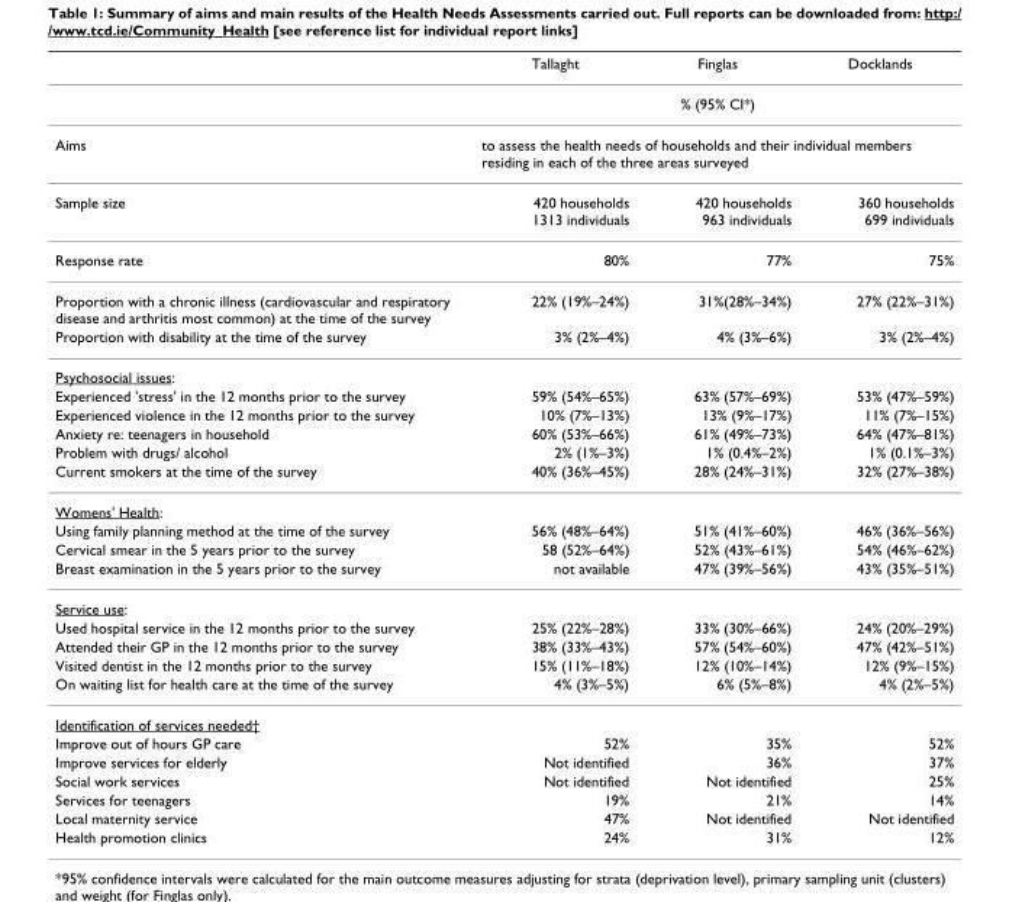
<table><thead><tr><td></td><td>Tallaght</td><td>Finglas</td><td>Docklands</td></tr></thead><tbody><tr><td></td><td colspan="3">% (95% CI*)</td></tr><tr><td>Aims</td><td colspan="3">to assess the health needs of households and their individual members residing in each of the three areas surveyed</td></tr><tr><td>Sample size</td><td>420 households 1313 individuals</td><td>420 households 963 individuals</td><td>360 households 699 individuals</td></tr><tr><td>Response rate</td><td>80%</td><td>77%</td><td>75%</td></tr><tr><td>Proportion with a chronic illness (cardiovascular and respiratory disease and arthritis most common) at the time of the survey</td><td>22% (19%–24%)</td><td>31%(28%–34%)</td><td>27% (22%–31%)</td></tr><tr><td>Proportion with disability at the time of the survey</td><td>3% (2%–4%)</td><td>4% (3%–6%)</td><td>3% (2%–4%)</td></tr><tr><td colspan="4">Psychosocial issues:</td></tr><tr><td>Experienced &#x27;stress&#x27; in the 12 months prior to the survey</td><td>59% (54%–65%)</td><td>63% (57%–69%)</td><td>53% (47%–59%)</td></tr><tr><td>Experienced violence in the 12 months prior to the survey</td><td>10% (7%–13%)</td><td>13% (9%–17%)</td><td>11% (7%–15%)</td></tr><tr><td>Anxiety re: teenagers in household</td><td>60% (53%–66%)</td><td>61% (49%–73%)</td><td>64% (47%–81%)</td></tr><tr><td>Problem with drugs/ alcohol</td><td>2% (1%–3%)</td><td>1% (0.4%–2%)</td><td>1% (0.1%–3%)</td></tr><tr><td>Current smokers at the time of the survey</td><td>40% (36%–45%)</td><td>28% (24%–31%)</td><td>32% (27%–38%)</td></tr><tr><td colspan="4">Womens&#x27; Health:</td></tr><tr><td>Using family planning method at the time of the survey</td><td>56% (48%–64%)</td><td>51% (41%–60%)</td><td>46% (36%–56%)</td></tr><tr><td>Cervical smear in the 5 years prior to the survey</td><td>58 (52%–64%)</td><td>52% (43%–61%)</td><td>54% (46%–62%)</td></tr><tr><td>Breast examination in the 5 years prior to the survey</td><td>not available</td><td>47% (39%–56%)</td><td>43% (35%–51%)</td></tr><tr><td colspan="4">Service use:</td></tr><tr><td>Used hospital service in the 12 months prior to the survey</td><td>25% (22%–28%)</td><td>33% (30%–66%)</td><td>24% (20%–29%)</td></tr><tr><td>Attended their GP in the 12 months prior to the survey</td><td>38% (33%–43%)</td><td>57% (54%–60%)</td><td>47% (42%–51%)</td></tr><tr><td>Visited dentist in the 12 months prior to the survey</td><td>15% (11%–18%)</td><td>12% (10%–14%)</td><td>12% (9%–15%)</td></tr><tr><td>On waiting list for health care at the time of the survey</td><td>4% (3%–5%)</td><td>6% (5%–8%)</td><td>4% (2%–5%)</td></tr><tr><td colspan="4">Identification of services needed†</td></tr><tr><td>Improve out of hours GP care</td><td>52%</td><td>35%</td><td>52%</td></tr><tr><td>Improve services for elderly</td><td>Not identified</td><td>36%</td><td>37%</td></tr><tr><td>Social work services</td><td>Not identified</td><td>Not identified</td><td>25%</td></tr><tr><td>Services for teenagers</td><td>19%</td><td>21%</td><td>14%</td></tr><tr><td>Local maternity service</td><td>47%</td><td>Not identified</td><td>Not identified</td></tr><tr><td>Health promotion clinics</td><td>24%</td><td>31%</td><td>12%</td></tr></tbody></table>